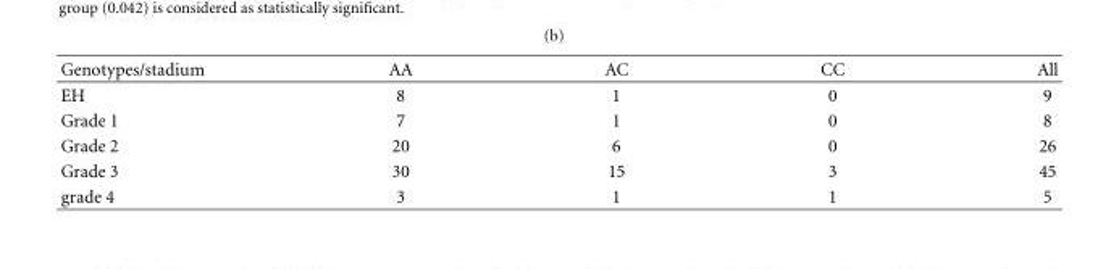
<table><thead><tr><td>Genotypes/stadium</td><td>AA</td><td>AC</td><td>CC</td><td>All</td></tr></thead><tbody><tr><td>EH</td><td>8</td><td>1</td><td>0</td><td>9</td></tr><tr><td>Grade 1</td><td>7</td><td>1</td><td>0</td><td>8</td></tr><tr><td>Grade 2</td><td>20</td><td>6</td><td>0</td><td>26</td></tr><tr><td>Grade 3</td><td>30</td><td>15</td><td>3</td><td>45</td></tr><tr><td>grade 4</td><td>3</td><td>1</td><td>1</td><td>5</td></tr></tbody></table>